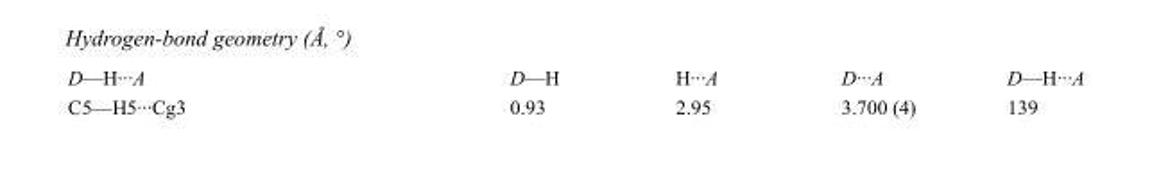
<table><tbody><tr><td>D—H···A</td><td>D—H</td><td>H···A</td><td>D···A</td><td>D—H···A</td></tr><tr><td>C5—H5···Cg3</td><td>0.93</td><td>2.95</td><td>3.700 (4)</td><td>139</td></tr></tbody></table>